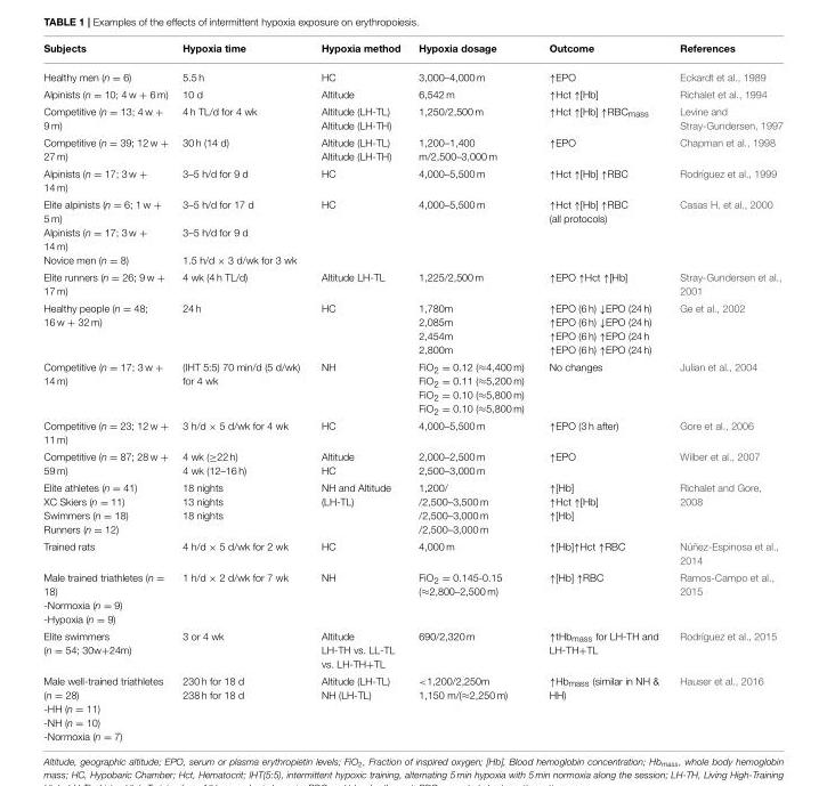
<table><thead><tr><td>Subjects</td><td>Hypoxia time</td><td>Hypoxia method</td><td>Hypoxia dosage</td><td>Outcome</td><td>References</td></tr></thead><tbody><tr><td>Healthy men (n = 6)</td><td>5.5 h</td><td>HC</td><td>3,000–4,000 m</td><td>↑EPO</td><td>Eckardt et al., 1989</td></tr><tr><td>Alpinists (n = 10; 4 w + 6 m)</td><td>10 d</td><td>Altitude</td><td>6,542 m</td><td>↑Hct ↑[Hb]</td><td>Richalet et al., 1994</td></tr><tr><td>Competitive (n = 13; 4 w + 9 m)</td><td>4 h TL/d for 4 wk</td><td>Altitude (LH-TL) Altitude (LH-TH)</td><td>1,250/2,500 m</td><td>↑Hct ↑[Hb] ↑RBC<sub>mass</sub></td><td>Levine and Stray-Gundersen, 1997</td></tr><tr><td>Competitive (n = 39; 12 w + 27 m)</td><td>30 h (14 d)</td><td>Altitude (LH-TL) Altitude (LH-TH)</td><td>1,200–1,400 m/2,500–3,000 m</td><td>↑EPO</td><td>Chapman et al., 1998</td></tr><tr><td>Alpinists (n = 17; 3 w + 14 m)</td><td>3–5 h/d for 9 d</td><td>HC</td><td>4,000–5,500 m</td><td>↑Hct ↑[Hb] ↑RBC</td><td>Rodríguez et al., 1999</td></tr><tr><td>Elite alpinists (n = 6; 1 w + 5 m) Alpinists (n = 17; 3 w + 14 m) Novice men (n = 8)</td><td>3–5 h/d for 17 d 3–5 h/d for 9 d 1.5 h/d × 3 d/wk for 3 wk</td><td>HC</td><td>4,000–5,500 m</td><td>↑Hct ↑[Hb] ↑RBC (all protocols)</td><td>Casas H. et al., 2000</td></tr><tr><td>Elite runners (n = 26; 9 w + 17 m)</td><td>4 wk (4 h TL/d)</td><td>Altitude LH-TL</td><td>1,225/2,500 m</td><td>↑EPO ↑Hct ↑[Hb]</td><td>Stray-Gundersen et al., 2001</td></tr><tr><td>Healthy people (n = 48; 16 w + 32 m)</td><td>24 h</td><td>HC</td><td>1,780m 2,085m 2,454m 2,800m</td><td>↑EPO (6 h) ↓EPO (24 h) ↑EPO (6 h) ↓EPO (24 h) ↑EPO (6 h) ↑EPO (24 h ↑EPO (6 h) ↑EPO (24 h)</td><td>Ge et al., 2002</td></tr><tr><td>Competitive (n = 17; 3 w + 14 m)</td><td>(IHT 5:5) 70 min/d (5 d/wk) for 4 wk</td><td>NH</td><td>FiO<sub>2</sub> = 0.12 (≈4,400 m) FiO<sub>2</sub> = 0.11 (≈5,200 m) FiO<sub>2</sub> = 0.10 (≈5,800 m) FiO<sub>2</sub> = 0.10 (≈5,800 m)</td><td>No changes</td><td>Julian et al., 2004</td></tr><tr><td>Competitive (n = 23; 12 w + 11 m)</td><td>3 h/d × 5 d/wk for 4 wk</td><td>HC</td><td>4,000–5,500 m</td><td>↑EPO (3 h after)</td><td>Gore et al., 2006</td></tr><tr><td>Competitive (n = 87; 28 w + 59 m)</td><td>4 wk (≥22 h) 4 wk (12–16 h)</td><td>Altitude HC</td><td>2,000–2,500 m 2,500–3,000 m</td><td>↑EPO</td><td>Wilber et al., 2007</td></tr><tr><td>Elite athletes (n = 41) XC Skiers (n = 11) Swimmers (n = 18) Runners (n = 12)</td><td>18 nights 13 nights 18 nights</td><td>NH and Altitude (LH-TL)</td><td>1,200/ /2,500–3,500 m /2,500–3,000 m /2,500–3,000 m</td><td>↑[Hb] ↑Hct ↑[Hb] ↑[Hb]</td><td>Richalet and Gore, 2008</td></tr><tr><td>Trained rats</td><td>4 h/d × 5 d/wk for 2 wk</td><td>HC</td><td>4,000 m</td><td>↑[Hb]↑Hct ↑RBC</td><td>Núñez-Espinosa et al., 2014</td></tr><tr><td>Male trained triathletes (n = 18) -Normoxia (n = 9) -Hypoxia (n = 9)</td><td>1 h/d × 2 d/wk for 7 wk</td><td>NH</td><td>FiO<sub>2</sub> = 0.145-0.15 (≈2,800–2,500 m)</td><td>↑[Hb] ↑RBC</td><td>Ramos-Campo et al., 2015</td></tr><tr><td>Elite swimmers (n = 54; 30w+24m)</td><td>3 or 4 wk</td><td>Altitude LH-TH vs. LL-TL vs. LH-TH+TL</td><td>690/2,320 m</td><td>↑tHb<sub>mass</sub> for LH-TH and LH-TH+TL</td><td>Rodríguez et al., 2015</td></tr><tr><td>Male well-trained triathletes (n = 28) -HH (n = 11) -NH (n = 10) -Normoxia (n = 7)</td><td>230 h for 18 d 238 h for 18 d</td><td>Altitude (LH-TL) NH (LH-TL)</td><td>&lt;1,200/2,250m 1,150 m/(≈2,250 m)</td><td>↑Hb<sub>mass</sub> (similar in NH &amp; HH)</td><td>Hauser et al., 2016</td></tr></tbody></table>